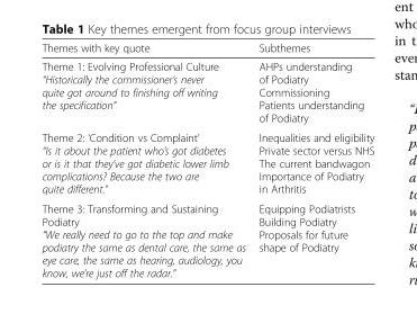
<table><thead><tr><td>Themes with key quote</td><td>Subthemes</td></tr></thead><tbody><tr><td>Theme 1: Evolving Professional Culture “Historically the commissioner’s never quite got around to finishing off writing the specification”</td><td>AHPs understanding of Podiatry Commissioning Patients understanding of Podiatry</td></tr><tr><td>Theme 2: ‘Condition vs Complaint’ “Is it about the patient who’s got diabetes or is it that they’ve got diabetic lower limb complications? Because the two are quite different.”</td><td>Inequalities and eligibility Private sector versus NHS The current bandwagon Importance of Podiatry in Arthritis</td></tr><tr><td>Theme 3: Transforming and Sustaining Podiatry “We really need to go to the top and make podiatry the same as dental care, the same as eye care, the same as hearing, audiology, you know, we’re just off the radar.”</td><td>Equipping Podiatrists Building Podiatry Proposals for future shape of Podiatry</td></tr></tbody></table>